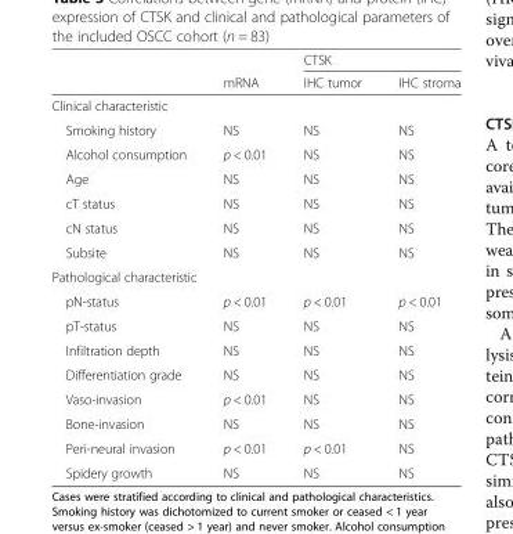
<table><thead><tr><td rowspan="2"></td><td rowspan="2">mRNA</td><td colspan="2">CTSK</td></tr><tr><td>IHC tumor</td><td>IHC stroma</td></tr></thead><tbody><tr><td colspan="4">Clinical characteristic</td></tr><tr><td>Smoking history</td><td>NS</td><td>NS</td><td>NS</td></tr><tr><td>Alcohol consumption</td><td>p &lt; 0.01</td><td>NS</td><td>NS</td></tr><tr><td>Age</td><td>NS</td><td>NS</td><td>NS</td></tr><tr><td>cT status</td><td>NS</td><td>NS</td><td>NS</td></tr><tr><td>cN status</td><td>NS</td><td>NS</td><td>NS</td></tr><tr><td>Subsite</td><td>NS</td><td>NS</td><td>NS</td></tr><tr><td colspan="4">Pathological characteristic</td></tr><tr><td>pN-status</td><td>p &lt; 0.01</td><td>p &lt; 0.01</td><td>p &lt; 0.01</td></tr><tr><td>pT-status</td><td>NS</td><td>NS</td><td>NS</td></tr><tr><td>Infiltration depth</td><td>NS</td><td>NS</td><td>NS</td></tr><tr><td>Differentiation grade</td><td>NS</td><td>NS</td><td>NS</td></tr><tr><td>Vaso-invasion</td><td>p &lt; 0.01</td><td>NS</td><td>NS</td></tr><tr><td>Bone-invasion</td><td>NS</td><td>NS</td><td>NS</td></tr><tr><td>Peri-neural invasion</td><td>p &lt; 0.01</td><td>p &lt; 0.01</td><td>NS</td></tr><tr><td>Spidery growth</td><td>NS</td><td>NS</td><td>NS</td></tr></tbody></table>